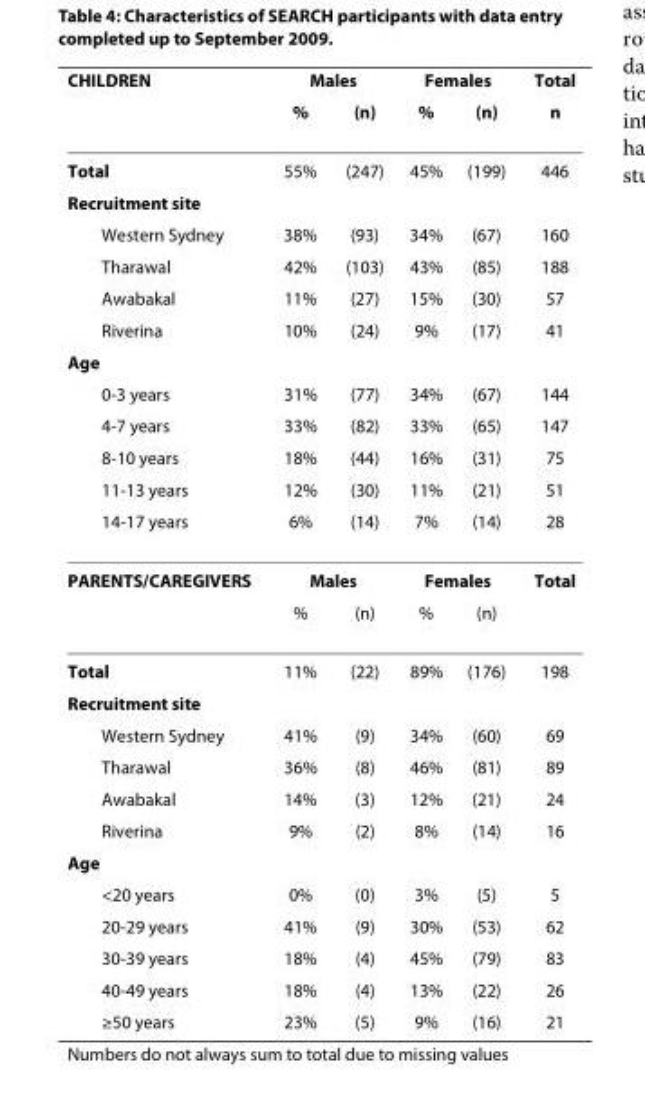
<table><thead><tr><td rowspan="2">CHILDREN</td><td colspan="2">Males</td><td colspan="2">Females</td><td rowspan="2">Total n</td></tr><tr><td>%</td><td>(n)</td><td>%</td><td>(n)</td></tr></thead><tbody><tr><td>Total</td><td>55%</td><td>(247)</td><td>45%</td><td>(199)</td><td>446</td></tr><tr><td colspan="6">Recruitment site</td></tr><tr><td>Western Sydney</td><td>38%</td><td>(93)</td><td>34%</td><td>(67)</td><td>160</td></tr><tr><td>Tharawal</td><td>42%</td><td>(103)</td><td>43%</td><td>(85)</td><td>188</td></tr><tr><td>Awabakal</td><td>11%</td><td>(27)</td><td>15%</td><td>(30)</td><td>57</td></tr><tr><td>Riverina</td><td>10%</td><td>(24)</td><td>9%</td><td>(17)</td><td>41</td></tr><tr><td colspan="6">Age</td></tr><tr><td>0-3 years</td><td>31%</td><td>(77)</td><td>34%</td><td>(67)</td><td>144</td></tr><tr><td>4-7 years</td><td>33%</td><td>(82)</td><td>33%</td><td>(65)</td><td>147</td></tr><tr><td>8-10 years</td><td>18%</td><td>(44)</td><td>16%</td><td>(31)</td><td>75</td></tr><tr><td>11-13 years</td><td>12%</td><td>(30)</td><td>11%</td><td>(21)</td><td>51</td></tr><tr><td>14-17 years</td><td>6%</td><td>(14)</td><td>7%</td><td>(14)</td><td>28</td></tr><tr><td rowspan="2">PARENTS/CAREGIVERS</td><td colspan="2">Males</td><td colspan="2">Females</td><td>Total</td></tr><tr><td>%</td><td>(n)</td><td>%</td><td>(n)</td><td></td></tr><tr><td>Total</td><td>11%</td><td>(22)</td><td>89%</td><td>(176)</td><td>198</td></tr><tr><td colspan="6">Recruitment site</td></tr><tr><td>Western Sydney</td><td>41%</td><td>(9)</td><td>34%</td><td>(60)</td><td>69</td></tr><tr><td>Tharawal</td><td>36%</td><td>(8)</td><td>46%</td><td>(81)</td><td>89</td></tr><tr><td>Awabakal</td><td>14%</td><td>(3)</td><td>12%</td><td>(21)</td><td>24</td></tr><tr><td>Riverina</td><td>9%</td><td>(2)</td><td>8%</td><td>(14)</td><td>16</td></tr><tr><td colspan="6">Age</td></tr><tr><td>&lt;20 years</td><td>0%</td><td>(0)</td><td>3%</td><td>(5)</td><td>5</td></tr><tr><td>20-29 years</td><td>41%</td><td>(9)</td><td>30%</td><td>(53)</td><td>62</td></tr><tr><td>30-39 years</td><td>18%</td><td>(4)</td><td>45%</td><td>(79)</td><td>83</td></tr><tr><td>40-49 years</td><td>18%</td><td>(4)</td><td>13%</td><td>(22)</td><td>26</td></tr><tr><td>≥50 years</td><td>23%</td><td>(5)</td><td>9%</td><td>(16)</td><td>21</td></tr></tbody></table>